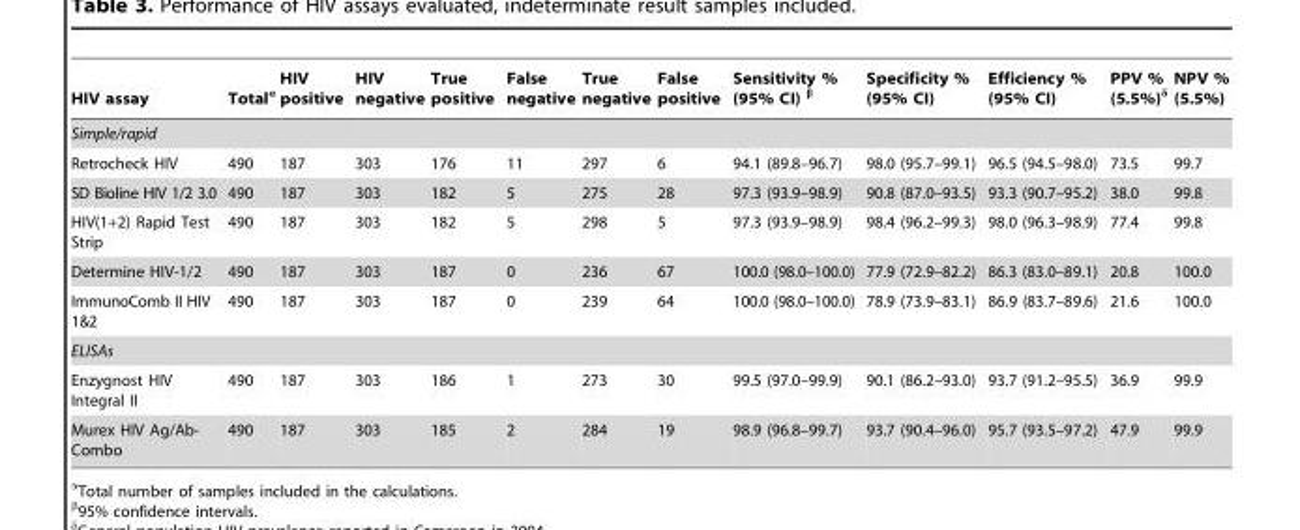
<table><thead><tr><td>HIV assay</td><td>Totalα</td><td>HIV positive</td><td>HIV negative</td><td>True positive</td><td>False negative</td><td>True negative</td><td>False positive</td><td>Sensitivity % (95% CI) β</td><td>Specificity % (95% CI)</td><td>Efficiency % (95% CI)</td><td>PPV % (5.5%)δ</td><td>NPV % (5.5%)</td></tr></thead><tbody><tr><td colspan="13">Simple/rapid</td></tr><tr><td>Retrocheck HIV</td><td>490</td><td>187</td><td>303</td><td>176</td><td>11</td><td>297</td><td>6</td><td>94.1 (89.8–96.7)</td><td>98.0 (95.7–99.1)</td><td>96.5 (94.5–98.0)</td><td>73.5</td><td>99.7</td></tr><tr><td>SD Bioline HIV 1/2 3.0</td><td>490</td><td>187</td><td>303</td><td>182</td><td>5</td><td>275</td><td>28</td><td>97.3 (93.9–98.9)</td><td>90.8 (87.0–93.5)</td><td>93.3 (90.7–95.2)</td><td>38.0</td><td>99.8</td></tr><tr><td>HIV(1+2) Rapid Test Strip</td><td>490</td><td>187</td><td>303</td><td>182</td><td>5</td><td>298</td><td>5</td><td>97.3 (93.9–98.9)</td><td>98.4 (96.2–99.3)</td><td>98.0 (96.3–98.9)</td><td>77.4</td><td>99.8</td></tr><tr><td>Determine HIV-1/2</td><td>490</td><td>187</td><td>303</td><td>187</td><td>0</td><td>236</td><td>67</td><td>100.0 (98.0–100.0)</td><td>77.9 (72.9–82.2)</td><td>86.3 (83.0–89.1)</td><td>20.8</td><td>100.0</td></tr><tr><td>ImmunoComb II HIV 1&amp;2</td><td>490</td><td>187</td><td>303</td><td>187</td><td>0</td><td>239</td><td>64</td><td>100.0 (98.0–100.0)</td><td>78.9 (73.9–83.1)</td><td>86.9 (83.7–89.6)</td><td>21.6</td><td>100.0</td></tr><tr><td colspan="13">ELISAs</td></tr><tr><td>Enzygnost HIV Integral II</td><td>490</td><td>187</td><td>303</td><td>186</td><td>1</td><td>273</td><td>30</td><td>99.5 (97.0–99.9)</td><td>90.1 (86.2–93.0)</td><td>93.7 (91.2–95.5)</td><td>36.9</td><td>99.9</td></tr><tr><td>Murex HIV Ag/Ab- Combo</td><td>490</td><td>187</td><td>303</td><td>185</td><td>2</td><td>284</td><td>19</td><td>98.9 (96.8–99.7)</td><td>93.7 (90.4–96.0)</td><td>95.7 (93.5–97.2)</td><td>47.9</td><td>99.9</td></tr></tbody></table>